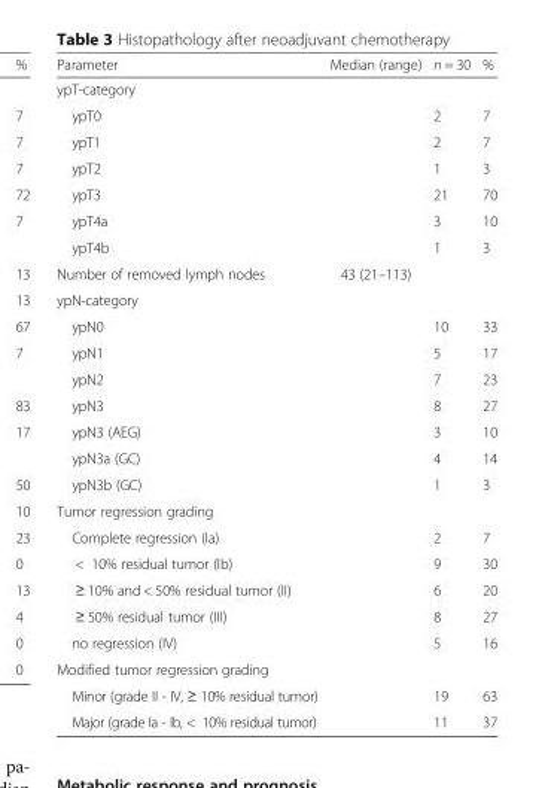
<table><thead><tr><td>Parameter</td><td>Median (range)</td><td>n = 30</td><td>%</td></tr></thead><tbody><tr><td colspan="4">ypT-category</td></tr><tr><td>ypT0</td><td rowspan="6"></td><td>2</td><td>7</td></tr><tr><td>ypT1</td><td>2</td><td>7</td></tr><tr><td>ypT2</td><td>1</td><td>3</td></tr><tr><td>ypT3</td><td>21</td><td>70</td></tr><tr><td>ypT4a</td><td>3</td><td>10</td></tr><tr><td>ypT4b</td><td>1</td><td>3</td></tr><tr><td>Number of removed lymph nodes</td><td>43 (21–113)</td><td colspan="2"></td></tr><tr><td colspan="4">ypN-category</td></tr><tr><td>ypN0</td><td rowspan="7"></td><td>10</td><td>33</td></tr><tr><td>ypN1</td><td>5</td><td>17</td></tr><tr><td>ypN2</td><td>7</td><td>23</td></tr><tr><td>ypN3</td><td>8</td><td>27</td></tr><tr><td>ypN3 (AEG)</td><td>3</td><td>10</td></tr><tr><td>ypN3a (GC)</td><td>4</td><td>14</td></tr><tr><td>ypN3b (GC)</td><td>1</td><td>3</td></tr><tr><td colspan="4">Tumor regression grading</td></tr><tr><td>Complete regression (Ia)</td><td rowspan="5"></td><td>2</td><td>7</td></tr><tr><td>&lt; 10% residual tumor (Ib)</td><td>9</td><td>30</td></tr><tr><td>≥ 10% and &lt; 50% residual tumor (II)</td><td>6</td><td>20</td></tr><tr><td>≥ 50% residual tumor (III)</td><td>8</td><td>27</td></tr><tr><td>no regression (IV)</td><td>5</td><td>16</td></tr><tr><td colspan="4">Modified tumor regression grading</td></tr><tr><td>Minor (grade II - IV, ≥ 10% residual tumor)</td><td rowspan="2"></td><td>19</td><td>63</td></tr><tr><td>Major (grade Ia - Ib, &lt; 10% residual tumor)</td><td>11</td><td>37</td></tr></tbody></table>